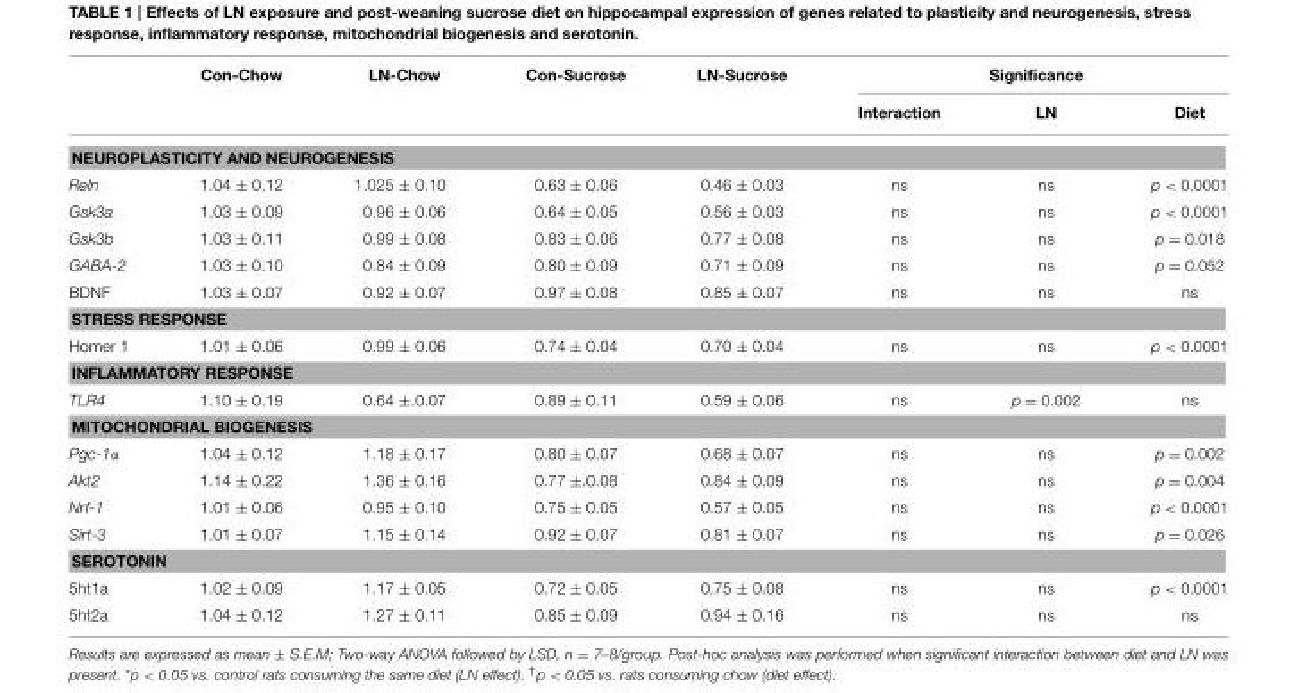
<table><thead><tr><td rowspan="2"></td><td rowspan="2">Con-Chow</td><td rowspan="2">LN-Chow</td><td rowspan="2">Con-Sucrose</td><td rowspan="2">LN-Sucrose</td><td colspan="3">Significance</td></tr><tr><td>Interaction</td><td>LN</td><td>Diet</td></tr></thead><tbody><tr><td colspan="8">NEUROPLASTICITY AND NEUROGENESIS</td></tr><tr><td>Reln</td><td>1.04 ± 0.12</td><td>1.025 ± 0.10</td><td>0.63 ± 0.06</td><td>0.46 ± 0.03</td><td>ns</td><td>ns</td><td>p &lt; 0.0001</td></tr><tr><td>Gsk3a</td><td>1.03 ± 0.09</td><td>0.96 ± 0.06</td><td>0.64 ± 0.05</td><td>0.56 ± 0.03</td><td>ns</td><td>ns</td><td>p &lt; 0.0001</td></tr><tr><td>Gsk3b</td><td>1.03 ± 0.11</td><td>0.99 ± 0.08</td><td>0.83 ± 0.06</td><td>0.77 ± 0.08</td><td>ns</td><td>ns</td><td>p = 0.018</td></tr><tr><td>GABA-2</td><td>1.03 ± 0.10</td><td>0.84 ± 0.09</td><td>0.80 ± 0.09</td><td>0.71 ± 0.09</td><td>ns</td><td>ns</td><td>p = 0.052</td></tr><tr><td>BDNF</td><td>1.03 ± 0.07</td><td>0.92 ± 0.07</td><td>0.97 ± 0.08</td><td>0.85 ± 0.07</td><td>ns</td><td>ns</td><td>ns</td></tr><tr><td colspan="8">STRESS RESPONSE</td></tr><tr><td>Homer 1</td><td>1.01 ± 0.06</td><td>0.99 ± 0.06</td><td>0.74 ± 0.04</td><td>0.70 ± 0.04</td><td>ns</td><td>ns</td><td>p &lt; 0.0001</td></tr><tr><td colspan="8">INFLAMMATORY RESPONSE</td></tr><tr><td>TLR4</td><td>1.10 ± 0.19</td><td>0.64 ±.0.07</td><td>0.89 ± 0.11</td><td>0.59 ± 0.06</td><td>ns</td><td>p = 0.002</td><td>ns</td></tr><tr><td colspan="8">MITOCHONDRIAL BIOGENESIS</td></tr><tr><td>Pgc-1α</td><td>1.04 ± 0.12</td><td>1.18 ± 0.17</td><td>0.80 ± 0.07</td><td>0.68 ± 0.07</td><td>ns</td><td>ns</td><td>p = 0.002</td></tr><tr><td>Akt2</td><td>1.14 ± 0.22</td><td>1.36 ± 0.16</td><td>0.77 ±.0.08</td><td>0.84 ± 0.09</td><td>ns</td><td>ns</td><td>p = 0.004</td></tr><tr><td>Nrf-1</td><td>1.01 ± 0.06</td><td>0.95 ± 0.10</td><td>0.75 ± 0.05</td><td>0.57 ± 0.05</td><td>ns</td><td>ns</td><td>p &lt; 0.0001</td></tr><tr><td>Sirt-3</td><td>1.01 ± 0.07</td><td>1.15 ± 0.14</td><td>0.92 ± 0.07</td><td>0.81 ± 0.07</td><td>ns</td><td>ns</td><td>p = 0.026</td></tr><tr><td colspan="8">SEROTONIN</td></tr><tr><td>5ht1a</td><td>1.02 ± 0.09</td><td>1.17 ± 0.05</td><td>0.72 ± 0.05</td><td>0.75 ± 0.08</td><td>ns</td><td>ns</td><td>p &lt; 0.0001</td></tr><tr><td>5ht2a</td><td>1.04 ± 0.12</td><td>1.27 ± 0.11</td><td>0.85 ± 0.09</td><td>0.94 ± 0.16</td><td>ns</td><td>ns</td><td>ns</td></tr></tbody></table>